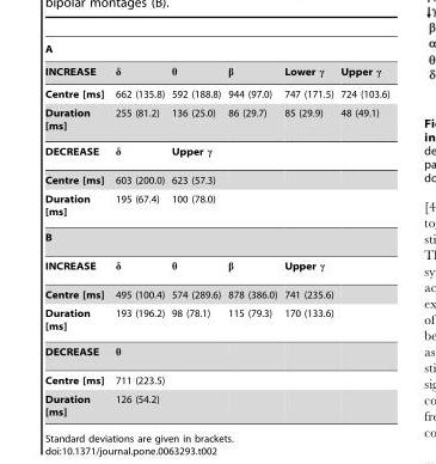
<table><thead><tr><td colspan="6">A</td></tr><tr><td>INCREASE</td><td>δ</td><td>θ</td><td>β</td><td>Lower γ</td><td>Upper γ</td></tr></thead><tbody><tr><td>Centre [ms]</td><td>662 (135.8)</td><td>592 (188.8)</td><td>944 (97.0)</td><td>747 (171.5)</td><td>724 (103.6)</td></tr><tr><td>Duration [ms]</td><td>255 (81.2)</td><td>136 (25.0)</td><td>86 (29.7)</td><td>85 (29.9)</td><td>48 (49.1)</td></tr><tr><td>DECREASE</td><td>δ</td><td>Upper γ</td><td></td><td></td><td></td></tr><tr><td>Centre [ms]</td><td>603 (200.0)</td><td>623 (57.3)</td><td></td><td></td><td></td></tr><tr><td>Duration [ms]</td><td>195 (67.4)</td><td>100 (78.0)</td><td></td><td></td><td></td></tr><tr><td colspan="6">B</td></tr><tr><td>INCREASE</td><td>δ</td><td>θ</td><td>β</td><td>Upper γ</td><td></td></tr><tr><td>Centre [ms]</td><td>495 (100.4)</td><td>574 (289.6)</td><td>878 (386.0)</td><td>741 (235.6)</td><td></td></tr><tr><td>Duration [ms]</td><td>193 (196.2)</td><td>98 (78.1)</td><td>115 (79.3)</td><td>170 (133.6)</td><td></td></tr><tr><td>DECREASE</td><td>θ</td><td></td><td></td><td></td><td></td></tr><tr><td>Centre [ms]</td><td>711 (223.5)</td><td></td><td></td><td></td><td></td></tr><tr><td>Duration [ms]</td><td>126 (54.2)</td><td></td><td></td><td></td><td></td></tr></tbody></table>